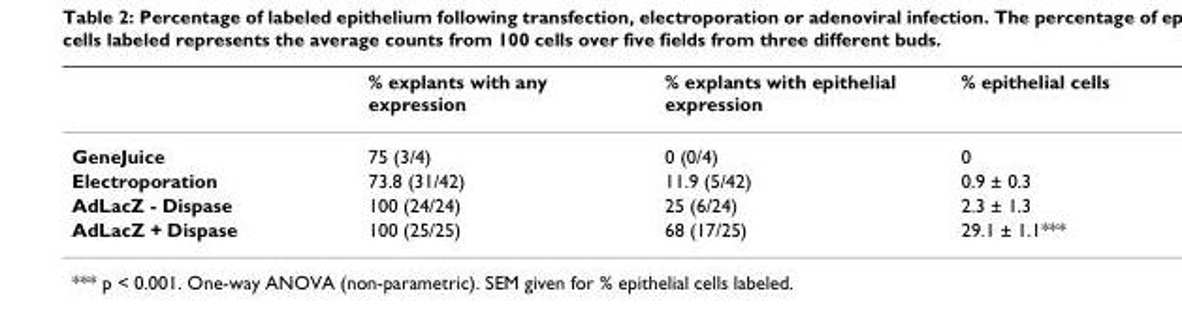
<table><thead><tr><td></td><td>% explants with any expression</td><td>% explants with epithelial expression</td><td>% epithelial cells</td></tr></thead><tbody><tr><td>GeneJuice</td><td>75 (3/4)</td><td>0 (0/4)</td><td>0</td></tr><tr><td>Electroporation</td><td>73.8 (31/42)</td><td>11.9 (5/42)</td><td>0.9 ± 0.3</td></tr><tr><td>AdLacZ - Dispase</td><td>100 (24/24)</td><td>25 (6/24)</td><td>2.3 ± 1.3</td></tr><tr><td>AdLacZ + Dispase</td><td>100 (25/25)</td><td>68 (17/25)</td><td>29.1 ± 1.1***</td></tr></tbody></table>